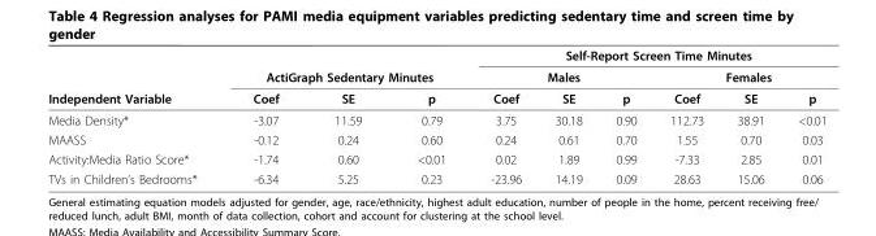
<table><thead><tr><td rowspan="3">Independent Variable</td><td></td><td></td><td></td><td colspan="6">Self-Report Screen Time Minutes</td></tr><tr><td colspan="3">ActiGraph Sedentary Minutes</td><td colspan="3">Males</td><td colspan="3">Females</td></tr><tr><td>Coef</td><td>SE</td><td>p</td><td>Coef</td><td>SE</td><td>p</td><td>Coef</td><td>SE</td><td>p</td></tr></thead><tbody><tr><td>Media Density*</td><td>-3.07</td><td>11.59</td><td>0.79</td><td>3.75</td><td>30.18</td><td>0.90</td><td>112.73</td><td>38.91</td><td>&lt;0.01</td></tr><tr><td>MAASS</td><td>-0.12</td><td>0.24</td><td>0.60</td><td>0.24</td><td>0.61</td><td>0.70</td><td>1.55</td><td>0.70</td><td>0.03</td></tr><tr><td>Activity:Media Ratio Score*</td><td>-1.74</td><td>0.60</td><td>&lt;0.01</td><td>0.02</td><td>1.89</td><td>0.99</td><td>-7.33</td><td>2.85</td><td>0.01</td></tr><tr><td>TVs in Children’s Bedrooms*</td><td>-6.34</td><td>5.25</td><td>0.23</td><td>-23.96</td><td>14.19</td><td>0.09</td><td>28.63</td><td>15.06</td><td>0.06</td></tr></tbody></table>